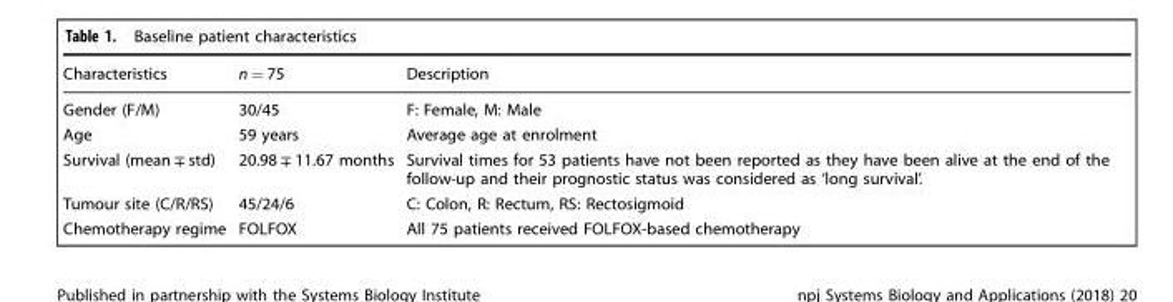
<table><thead><tr><td>Characteristics</td><td>n = 75</td><td>Description</td></tr></thead><tbody><tr><td>Gender (F/M)</td><td>30/45</td><td>F: Female, M: Male</td></tr><tr><td>Age</td><td>59 years</td><td>Average age at enrolment</td></tr><tr><td>Survival (mean ∓ std)</td><td>20.98 ∓ 11.67 months</td><td>Survival times for 53 patients have not been reported as they have been alive at the end of the follow-up and their prognostic status was considered as ‘long survival’.</td></tr><tr><td>Tumour site (C/R/RS)</td><td>45/24/6</td><td>C: Colon, R: Rectum, RS: Rectosigmoid</td></tr><tr><td>Chemotherapy regime</td><td>FOLFOX</td><td>All 75 patients received FOLFOX-based chemotherapy</td></tr></tbody></table>